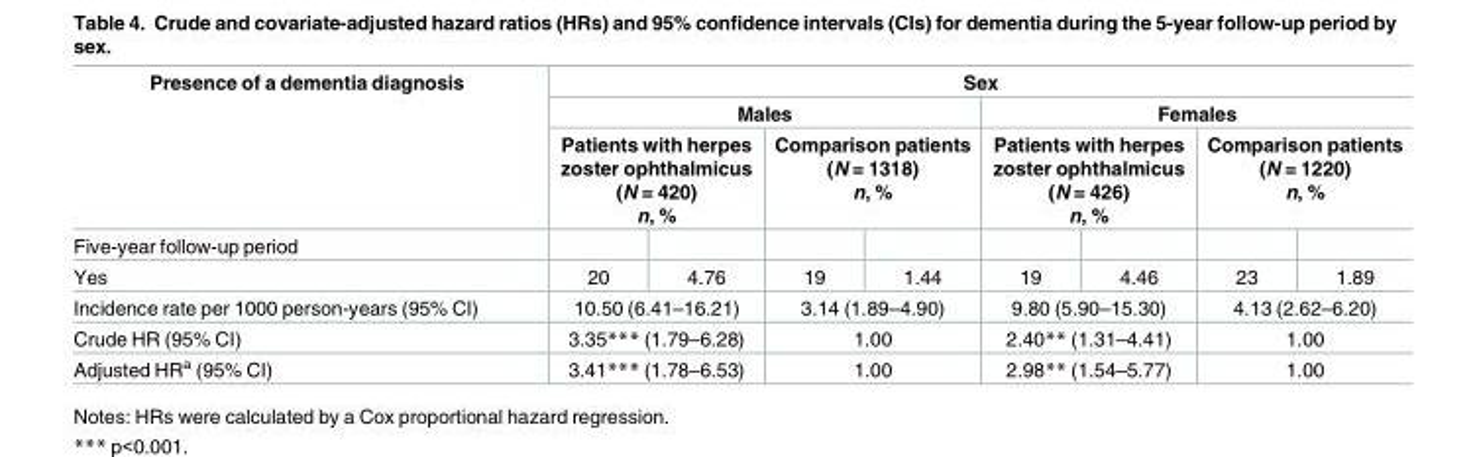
<table><thead><tr><td rowspan="4">Presence of a dementia diagnosis Five-year follow-up period</td><td colspan="8">Sex</td></tr><tr><td colspan="4">Males</td><td colspan="4">Females</td></tr><tr><td colspan="2">Patients with herpes zoster ophthalmicus (N = 420) n, %</td><td colspan="2">Comparison patients (N = 1318) n, %</td><td colspan="2">Patients with herpes zoster ophthalmicus (N = 426) n, %</td><td colspan="2">Comparison patients (N = 1220) n, %</td></tr><tr><td></td><td></td><td></td><td></td><td></td><td></td><td></td><td></td></tr></thead><tbody><tr><td>Yes</td><td>20</td><td>4.76</td><td>19</td><td>1.44</td><td>19</td><td>4.46</td><td>23</td><td>1.89</td></tr><tr><td>Incidence rate per 1000 person-years (95% CI)</td><td colspan="2">10.50 (6.41–16.21)</td><td colspan="2">3.14 (1.89–4.90)</td><td colspan="2">9.80 (5.90–15.30)</td><td colspan="2">4.13 (2.62–6.20)</td></tr><tr><td>Crude HR (95% CI)</td><td colspan="2">3.35*** (1.79–6.28)</td><td colspan="2">1.00</td><td colspan="2">2.40** (1.31–4.41)</td><td colspan="2">1.00</td></tr><tr><td>Adjusted HR<sup>a</sup> (95% CI)</td><td colspan="2">3.41*** (1.78–6.53)</td><td colspan="2">1.00</td><td colspan="2">2.98** (1.54–5.77)</td><td colspan="2">1.00</td></tr></tbody></table>